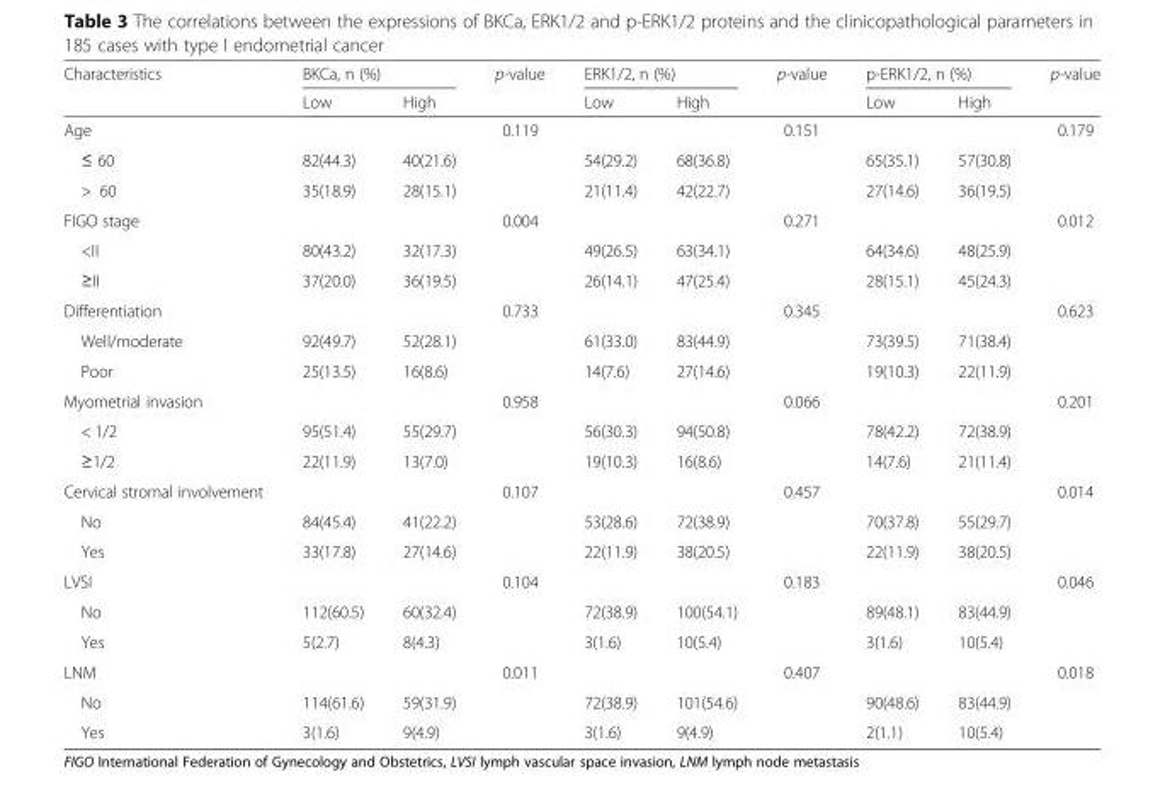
<table><thead><tr><td rowspan="2">Characteristics</td><td colspan="2">BKCa, n (%)</td><td rowspan="2">p-value</td><td colspan="2">ERK1/2, n (%)</td><td rowspan="2">p-value</td><td colspan="2">p-ERK1/2, n (%)</td><td rowspan="2">p-value</td></tr><tr><td>Low</td><td>High</td><td>Low</td><td>High</td><td>Low</td><td>High</td></tr></thead><tbody><tr><td>Age</td><td></td><td></td><td>0.119</td><td></td><td></td><td>0.151</td><td></td><td></td><td>0.179</td></tr><tr><td>≤ 60</td><td>82(44.3)</td><td>40(21.6)</td><td></td><td>54(29.2)</td><td>68(36.8)</td><td></td><td>65(35.1)</td><td>57(30.8)</td><td></td></tr><tr><td>&gt; 60</td><td>35(18.9)</td><td>28(15.1)</td><td></td><td>21(11.4)</td><td>42(22.7)</td><td></td><td>27(14.6)</td><td>36(19.5)</td><td></td></tr><tr><td>FIGO stage</td><td></td><td></td><td>0.004</td><td></td><td></td><td>0.271</td><td></td><td></td><td>0.012</td></tr><tr><td>&lt;II</td><td>80(43.2)</td><td>32(17.3)</td><td></td><td>49(26.5)</td><td>63(34.1)</td><td></td><td>64(34.6)</td><td>48(25.9)</td><td></td></tr><tr><td>≥II</td><td>37(20.0)</td><td>36(19.5)</td><td></td><td>26(14.1)</td><td>47(25.4)</td><td></td><td>28(15.1)</td><td>45(24.3)</td><td></td></tr><tr><td>Differentiation</td><td></td><td></td><td>0.733</td><td></td><td></td><td>0.345</td><td></td><td></td><td>0.623</td></tr><tr><td>Well/moderate</td><td>92(49.7)</td><td>52(28.1)</td><td></td><td>61(33.0)</td><td>83(44.9)</td><td></td><td>73(39.5)</td><td>71(38.4)</td><td></td></tr><tr><td>Poor</td><td>25(13.5)</td><td>16(8.6)</td><td></td><td>14(7.6)</td><td>27(14.6)</td><td></td><td>19(10.3)</td><td>22(11.9)</td><td></td></tr><tr><td>Myometrial invasion</td><td></td><td></td><td>0.958</td><td></td><td></td><td>0.066</td><td></td><td></td><td>0.201</td></tr><tr><td>&lt; 1/2</td><td>95(51.4)</td><td>55(29.7)</td><td></td><td>56(30.3)</td><td>94(50.8)</td><td></td><td>78(42.2)</td><td>72(38.9)</td><td></td></tr><tr><td>≥1/2</td><td>22(11.9)</td><td>13(7.0)</td><td></td><td>19(10.3)</td><td>16(8.6)</td><td></td><td>14(7.6)</td><td>21(11.4)</td><td></td></tr><tr><td>Cervical stromal involvement</td><td></td><td></td><td>0.107</td><td></td><td></td><td>0.457</td><td></td><td></td><td>0.014</td></tr><tr><td>No</td><td>84(45.4)</td><td>41(22.2)</td><td></td><td>53(28.6)</td><td>72(38.9)</td><td></td><td>70(37.8)</td><td>55(29.7)</td><td></td></tr><tr><td>Yes</td><td>33(17.8)</td><td>27(14.6)</td><td></td><td>22(11.9)</td><td>38(20.5)</td><td></td><td>22(11.9)</td><td>38(20.5)</td><td></td></tr><tr><td>LVSI</td><td></td><td></td><td>0.104</td><td></td><td></td><td>0.183</td><td></td><td></td><td>0.046</td></tr><tr><td>No</td><td>112(60.5)</td><td>60(32.4)</td><td></td><td>72(38.9)</td><td>100(54.1)</td><td></td><td>89(48.1)</td><td>83(44.9)</td><td></td></tr><tr><td>Yes</td><td>5(2.7)</td><td>8(4.3)</td><td></td><td>3(1.6)</td><td>10(5.4)</td><td></td><td>3(1.6)</td><td>10(5.4)</td><td></td></tr><tr><td>LNM</td><td></td><td></td><td>0.011</td><td></td><td></td><td>0.407</td><td></td><td></td><td>0.018</td></tr><tr><td>No</td><td>114(61.6)</td><td>59(31.9)</td><td></td><td>72(38.9)</td><td>101(54.6)</td><td></td><td>90(48.6)</td><td>83(44.9)</td><td></td></tr><tr><td>Yes</td><td>3(1.6)</td><td>9(4.9)</td><td></td><td>3(1.6)</td><td>9(4.9)</td><td></td><td>2(1.1)</td><td>10(5.4)</td><td></td></tr></tbody></table>